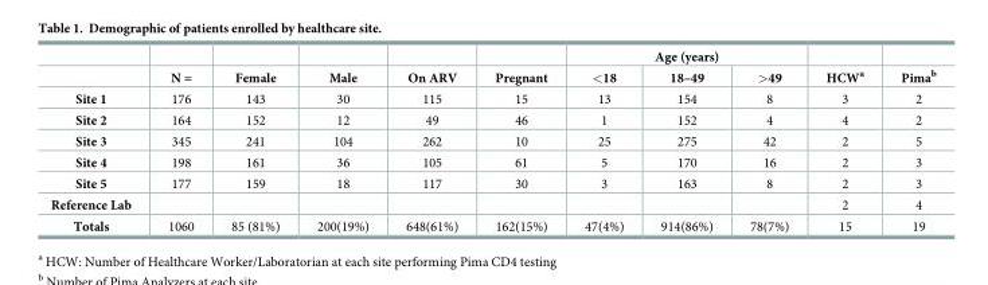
<table><thead><tr><td rowspan="2"></td><td rowspan="2">N =</td><td rowspan="2">Female</td><td rowspan="2">Male</td><td rowspan="2">On ARV</td><td rowspan="2">Pregnant</td><td colspan="3">Age (years)</td><td rowspan="2">HCW<sup>a</sup></td><td rowspan="2">Pima<sup>b</sup></td></tr><tr><td>&lt;18</td><td>18–49</td><td>&gt;49</td></tr></thead><tbody><tr><td>Site 1</td><td>176</td><td>143</td><td>30</td><td>115</td><td>15</td><td>13</td><td>154</td><td>8</td><td>3</td><td>2</td></tr><tr><td>Site 2</td><td>164</td><td>152</td><td>12</td><td>49</td><td>46</td><td>1</td><td>152</td><td>4</td><td>4</td><td>2</td></tr><tr><td>Site 3</td><td>345</td><td>241</td><td>104</td><td>262</td><td>10</td><td>25</td><td>275</td><td>42</td><td>2</td><td>5</td></tr><tr><td>Site 4</td><td>198</td><td>161</td><td>36</td><td>105</td><td>61</td><td>5</td><td>170</td><td>16</td><td>2</td><td>3</td></tr><tr><td>Site 5</td><td>177</td><td>159</td><td>18</td><td>117</td><td>30</td><td>3</td><td>163</td><td>8</td><td>2</td><td>3</td></tr><tr><td>Reference Lab</td><td></td><td></td><td></td><td></td><td></td><td></td><td></td><td></td><td>2</td><td>4</td></tr><tr><td>Totals</td><td>1060</td><td>85 (81%)</td><td>200(19%)</td><td>648(61%)</td><td>162(15%)</td><td>47(4%)</td><td>914(86%)</td><td>78(7%)</td><td>15</td><td>19</td></tr></tbody></table>